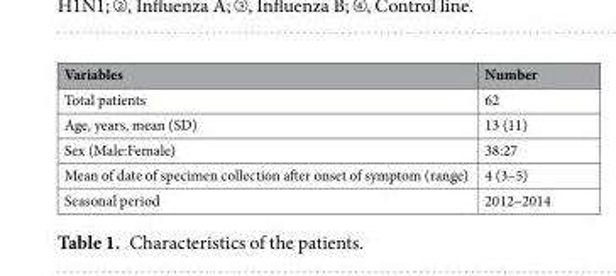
<table><thead><tr><td>Variables</td><td>Number</td></tr></thead><tbody><tr><td>Total patients</td><td>62</td></tr><tr><td>Age, years, mean (SD)</td><td>13 (11)</td></tr><tr><td>Sex (Male:Female)</td><td>38:27</td></tr><tr><td>Mean of date of specimen collection after onset of symptom (range)</td><td>4 (3–5)</td></tr><tr><td>Seasonal period</td><td>2012–2014</td></tr></tbody></table>